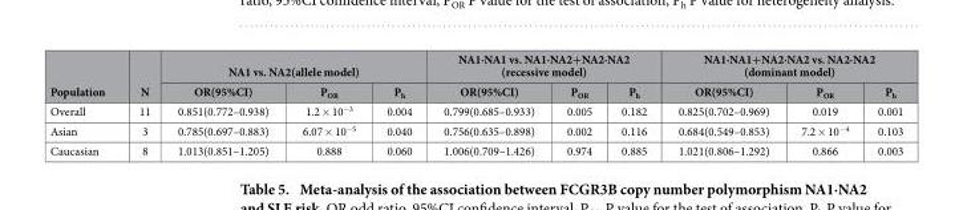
<table><thead><tr><td rowspan="2">Population</td><td rowspan="2">N</td><td colspan="3">NA1 vs. NA2(allele model)</td><td colspan="3">NA1·NA1 vs. NA1·NA2+NA2·NA2 (recessive model)</td><td colspan="3">NA1·NA1+NA2·NA2 vs. NA2·NA2 (dominant model)</td></tr><tr><td>OR(95%CI)</td><td>P<sub>OR</sub></td><td>P<sub>h</sub></td><td>OR(95%CI)</td><td>P<sub>OR</sub></td><td>P<sub>h</sub></td><td>OR(95%CI)</td><td>P<sub>OR</sub></td><td>P<sub>h</sub></td></tr></thead><tbody><tr><td>Overall</td><td>11</td><td>0.851(0.772–0.938)</td><td>1.2 × 10<sup>−3</sup></td><td>0.004</td><td>0.799(0.685–0.933)</td><td>0.005</td><td>0.182</td><td>0.825(0.702–0.969)</td><td>0.019</td><td>0.001</td></tr><tr><td>Asian</td><td>3</td><td>0.785(0.697–0.883)</td><td>6.07 × 10<sup>−5</sup></td><td>0.040</td><td>0.756(0.635–0.898)</td><td>0.002</td><td>0.116</td><td>0.684(0.549–0.853)</td><td>7.2 × 10<sup>−4</sup></td><td>0.103</td></tr><tr><td>Caucasian</td><td>8</td><td>1.013(0.851–1.205)</td><td>0.888</td><td>0.060</td><td>1.006(0.709–1.426)</td><td>0.974</td><td>0.885</td><td>1.021(0.806–1.292)</td><td>0.866</td><td>0.003</td></tr></tbody></table>